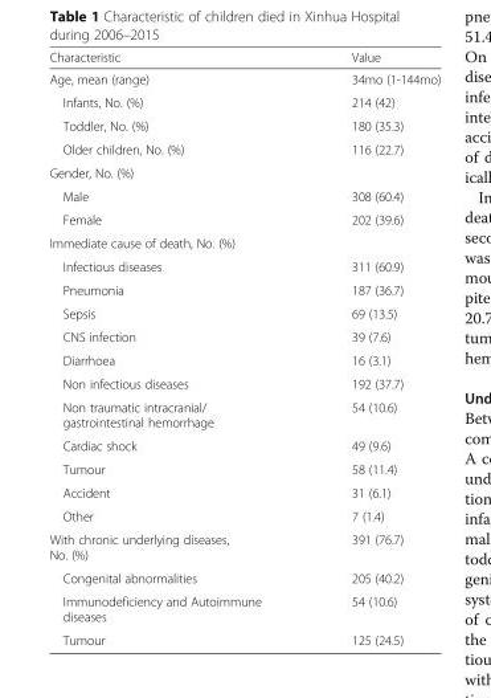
<table><thead><tr><td>Characteristic</td><td>Value</td></tr></thead><tbody><tr><td>Age, mean (range)</td><td>34mo (1-144mo)</td></tr><tr><td>Infants, No. (%)</td><td>214 (42)</td></tr><tr><td>Toddler, No. (%)</td><td>180 (35.3)</td></tr><tr><td>Older children, No. (%)</td><td>116 (22.7)</td></tr><tr><td colspan="2">Gender, No. (%)</td></tr><tr><td>Male</td><td>308 (60.4)</td></tr><tr><td>Female</td><td>202 (39.6)</td></tr><tr><td colspan="2">Immediate cause of death, No. (%)</td></tr><tr><td>Infectious diseases</td><td>311 (60.9)</td></tr><tr><td>Pneumonia</td><td>187 (36.7)</td></tr><tr><td>Sepsis</td><td>69 (13.5)</td></tr><tr><td>CNS infection</td><td>39 (7.6)</td></tr><tr><td>Diarrhoea</td><td>16 (3.1)</td></tr><tr><td>Non infectious diseases</td><td>192 (37.7)</td></tr><tr><td>Non traumatic intracranial/ gastrointestinal hemorrhage</td><td>54 (10.6)</td></tr><tr><td>Cardiac shock</td><td>49 (9.6)</td></tr><tr><td>Tumour</td><td>58 (11.4)</td></tr><tr><td>Accident</td><td>31 (6.1)</td></tr><tr><td>Other</td><td>7 (1.4)</td></tr><tr><td>With chronic underlying diseases, No. (%)</td><td>391 (76.7)</td></tr><tr><td>Congenital abnormalities</td><td>205 (40.2)</td></tr><tr><td>Immunodeficiency and Autoimmune diseases</td><td>54 (10.6)</td></tr><tr><td>Tumour</td><td>125 (24.5)</td></tr></tbody></table>